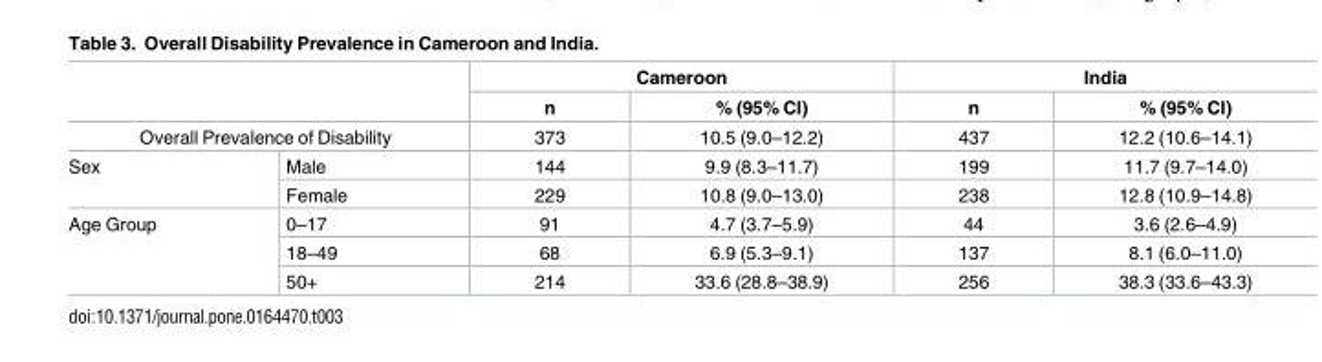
<table><thead><tr><td rowspan="2"></td><td rowspan="2"></td><td colspan="2">Cameroon</td><td colspan="2">India</td></tr><tr><td>n</td><td>% (95% CI)</td><td>n</td><td>% (95% CI)</td></tr></thead><tbody><tr><td colspan="2">Overall Prevalence of Disability</td><td>373</td><td>10.5 (9.0–12.2)</td><td>437</td><td>12.2 (10.6–14.1)</td></tr><tr><td rowspan="2">Sex</td><td>Male</td><td>144</td><td>9.9 (8.3–11.7)</td><td>199</td><td>11.7 (9.7–14.0)</td></tr><tr><td>Female</td><td>229</td><td>10.8 (9.0–13.0)</td><td>238</td><td>12.8 (10.9–14.8)</td></tr><tr><td rowspan="3">Age Group</td><td>0–17</td><td>91</td><td>4.7 (3.7–5.9)</td><td>44</td><td>3.6 (2.6–4.9)</td></tr><tr><td>18–49</td><td>68</td><td>6.9 (5.3–9.1)</td><td>137</td><td>8.1 (6.0–11.0)</td></tr><tr><td>50+</td><td>214</td><td>33.6 (28.8–38.9)</td><td>256</td><td>38.3 (33.6–43.3)</td></tr></tbody></table>